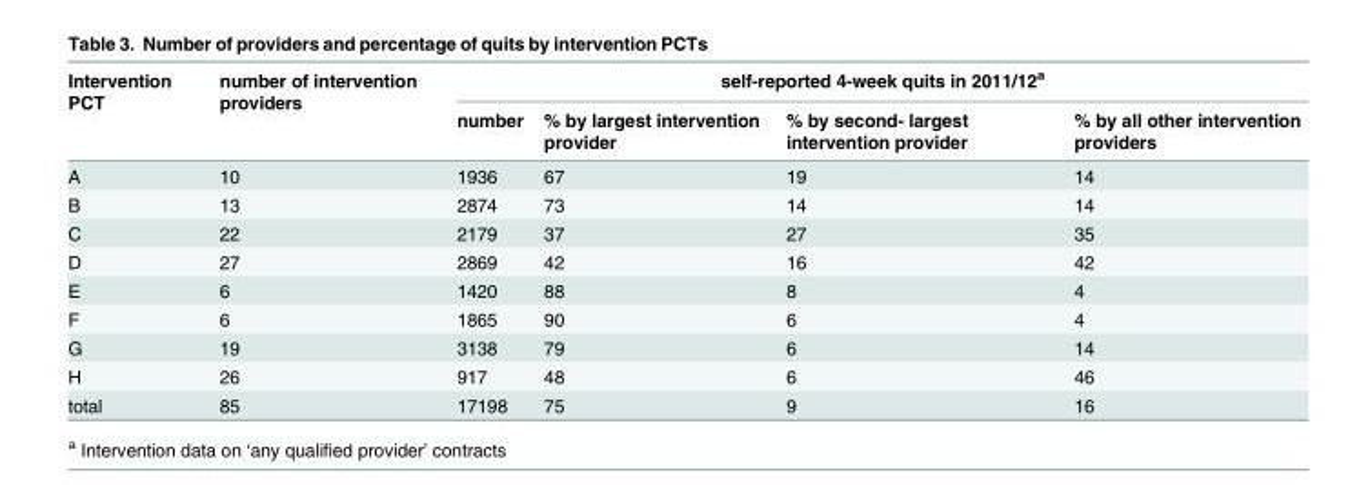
<table><thead><tr><td rowspan="2">Intervention PCT</td><td rowspan="2">number of intervention providers</td><td colspan="4">self-reported 4-week quits in 2011/12<sup>a</sup></td></tr><tr><td>number</td><td>% by largest intervention provider</td><td>% by second- largest intervention provider</td><td>% by all other intervention providers</td></tr></thead><tbody><tr><td>A</td><td>10</td><td>1936</td><td>67</td><td>19</td><td>14</td></tr><tr><td>B</td><td>13</td><td>2874</td><td>73</td><td>14</td><td>14</td></tr><tr><td>C</td><td>22</td><td>2179</td><td>37</td><td>27</td><td>35</td></tr><tr><td>D</td><td>27</td><td>2869</td><td>42</td><td>16</td><td>42</td></tr><tr><td>E</td><td>6</td><td>1420</td><td>88</td><td>8</td><td>4</td></tr><tr><td>F</td><td>6</td><td>1865</td><td>90</td><td>6</td><td>4</td></tr><tr><td>G</td><td>19</td><td>3138</td><td>79</td><td>6</td><td>14</td></tr><tr><td>H</td><td>26</td><td>917</td><td>48</td><td>6</td><td>46</td></tr><tr><td>total</td><td>85</td><td>17198</td><td>75</td><td>9</td><td>16</td></tr></tbody></table>